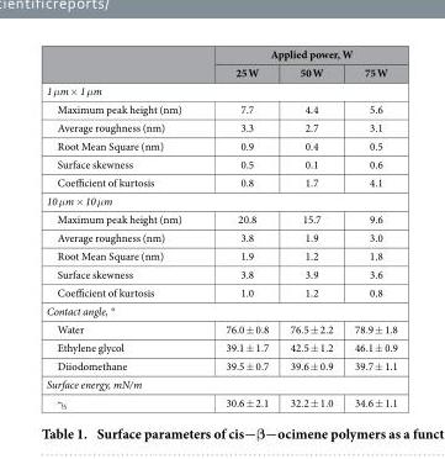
<table><thead><tr><td rowspan="2"></td><td colspan="3">Applied power, W</td></tr><tr><td>25 W</td><td>50 W</td><td>75 W</td></tr></thead><tbody><tr><td colspan="4">1 μm × 1 μm</td></tr><tr><td>Maximum peak height (nm)</td><td>7.7</td><td>4.4</td><td>5.6</td></tr><tr><td>Average roughness (nm)</td><td>3.3</td><td>2.7</td><td>3.1</td></tr><tr><td>Root Mean Square (nm)</td><td>0.9</td><td>0.4</td><td>0.5</td></tr><tr><td>Surface skewness</td><td>0.5</td><td>0.1</td><td>0.6</td></tr><tr><td>Coefficient of kurtosis</td><td>0.8</td><td>1.7</td><td>4.1</td></tr><tr><td colspan="4">10 μm × 10 μm</td></tr><tr><td>Maximum peak height (nm)</td><td>20.8</td><td>15.7</td><td>9.6</td></tr><tr><td>Average roughness (nm)</td><td>3.8</td><td>1.9</td><td>3.0</td></tr><tr><td>Root Mean Square (nm)</td><td>1.9</td><td>1.2</td><td>1.8</td></tr><tr><td>Surface skewness</td><td>3.8</td><td>3.9</td><td>3.6</td></tr><tr><td>Coefficient of kurtosis</td><td>1.0</td><td>1.2</td><td>0.8</td></tr><tr><td colspan="4">Contact angle, °</td></tr><tr><td>Water</td><td>76.0 ± 0.8</td><td>76.5 ± 2.2</td><td>78.9 ± 1.8</td></tr><tr><td>Ethylene glycol</td><td>39.1 ± 1.7</td><td>42.5 ± 1.2</td><td>46.1 ± 0.9</td></tr><tr><td>Diiodomethane</td><td>39.5 ± 0.7</td><td>39.6 ± 0.9</td><td>39.7 ± 1.1</td></tr><tr><td colspan="4">Surface energy, mN/m</td></tr><tr><td>γ <sub>S</sub></td><td>30.6 ± 2.1</td><td>32.2 ± 1.0</td><td>34.6 ± 1.1</td></tr></tbody></table>